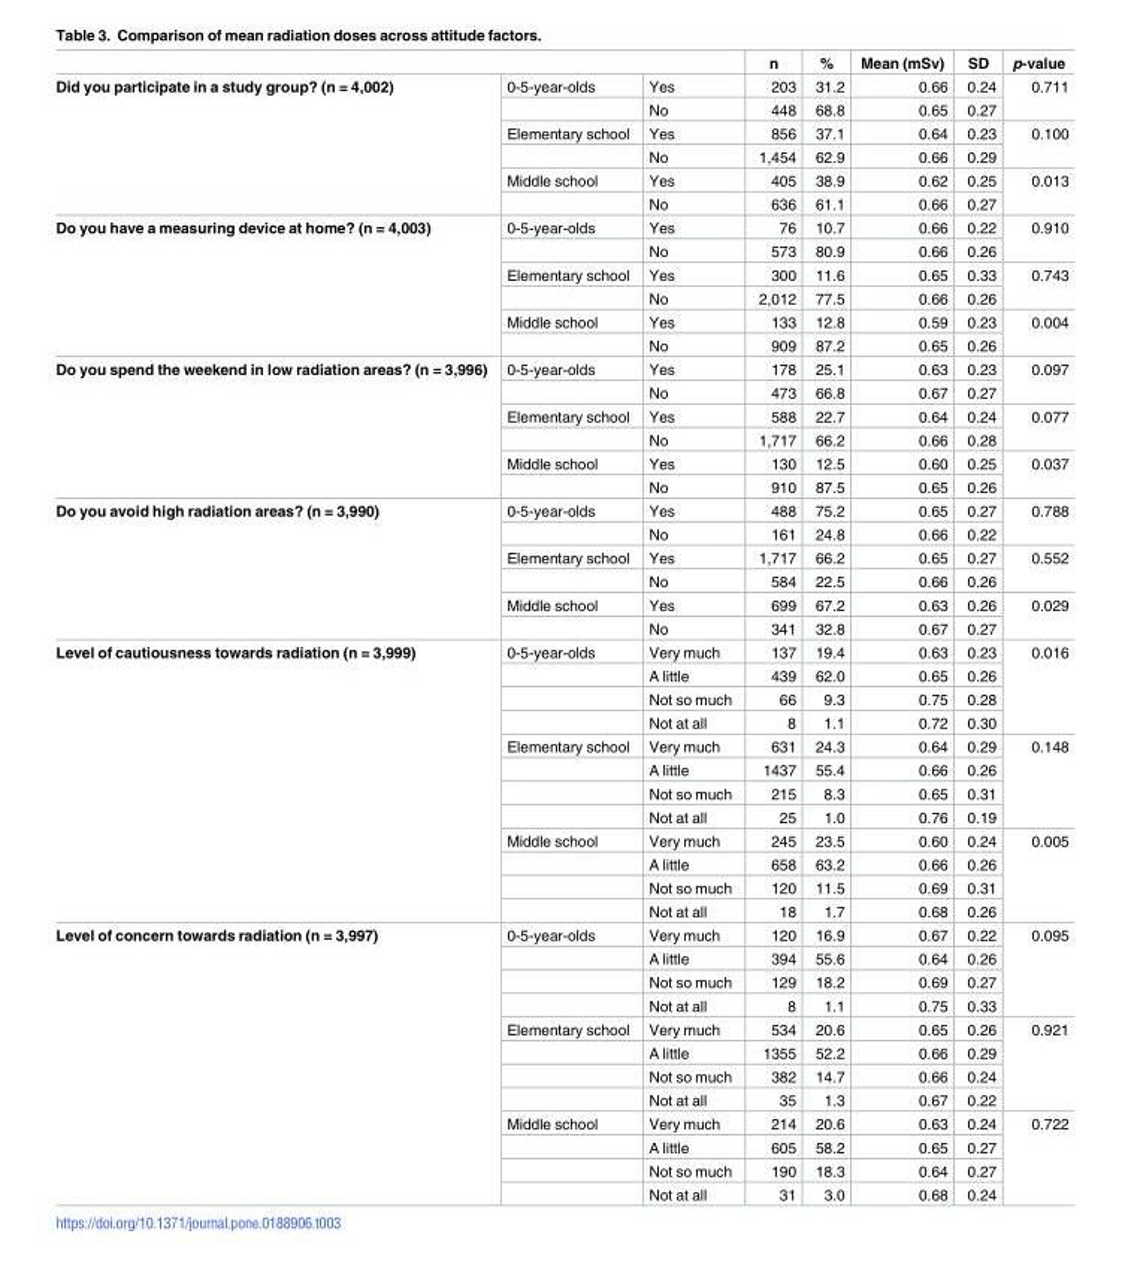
<table><thead><tr><td></td><td></td><td></td><td>n</td><td>%</td><td>Mean (mSv)</td><td>SD</td><td>p-value</td></tr></thead><tbody><tr><td rowspan="6">Did you participate in a study group? (n = 4,002)</td><td>0-5-year-olds</td><td>Yes</td><td>203</td><td>31.2</td><td>0.66</td><td>0.24</td><td rowspan="2">0.711</td></tr><tr><td></td><td>No</td><td>448</td><td>68.8</td><td>0.65</td><td>0.27</td></tr><tr><td>Elementary school</td><td>Yes</td><td>856</td><td>37.1</td><td>0.64</td><td>0.23</td><td rowspan="2">0.100</td></tr><tr><td></td><td>No</td><td>1,454</td><td>62.9</td><td>0.66</td><td>0.29</td></tr><tr><td>Middle school</td><td>Yes</td><td>405</td><td>38.9</td><td>0.62</td><td>0.25</td><td rowspan="2">0.013</td></tr><tr><td></td><td>No</td><td>636</td><td>61.1</td><td>0.66</td><td>0.27</td></tr><tr><td rowspan="6">Do you have a measuring device at home? (n = 4,003)</td><td>0-5-year-olds</td><td>Yes</td><td>76</td><td>10.7</td><td>0.66</td><td>0.22</td><td rowspan="2">0.910</td></tr><tr><td></td><td>No</td><td>573</td><td>80.9</td><td>0.66</td><td>0.26</td></tr><tr><td>Elementary school</td><td>Yes</td><td>300</td><td>11.6</td><td>0.65</td><td>0.33</td><td rowspan="2">0.743</td></tr><tr><td></td><td>No</td><td>2,012</td><td>77.5</td><td>0.66</td><td>0.26</td></tr><tr><td>Middle school</td><td>Yes</td><td>133</td><td>12.8</td><td>0.59</td><td>0.23</td><td rowspan="2">0.004</td></tr><tr><td></td><td>No</td><td>909</td><td>87.2</td><td>0.65</td><td>0.26</td></tr><tr><td rowspan="6">Do you spend the weekend in low radiation areas? (n = 3,996)</td><td>0-5-year-olds</td><td>Yes</td><td>178</td><td>25.1</td><td>0.63</td><td>0.23</td><td rowspan="2">0.097</td></tr><tr><td></td><td>No</td><td>473</td><td>66.8</td><td>0.67</td><td>0.27</td></tr><tr><td>Elementary school</td><td>Yes</td><td>588</td><td>22.7</td><td>0.64</td><td>0.24</td><td rowspan="2">0.077</td></tr><tr><td></td><td>No</td><td>1,717</td><td>66.2</td><td>0.66</td><td>0.28</td></tr><tr><td>Middle school</td><td>Yes</td><td>130</td><td>12.5</td><td>0.60</td><td>0.25</td><td rowspan="2">0.037</td></tr><tr><td></td><td>No</td><td>910</td><td>87.5</td><td>0.65</td><td>0.26</td></tr><tr><td rowspan="6">Do you avoid high radiation areas? (n = 3,990)</td><td>0-5-year-olds</td><td>Yes</td><td>488</td><td>75.2</td><td>0.65</td><td>0.27</td><td rowspan="2">0.788</td></tr><tr><td></td><td>No</td><td>161</td><td>24.8</td><td>0.66</td><td>0.22</td></tr><tr><td>Elementary school</td><td>Yes</td><td>1,717</td><td>66.2</td><td>0.65</td><td>0.27</td><td rowspan="2">0.552</td></tr><tr><td></td><td>No</td><td>584</td><td>22.5</td><td>0.66</td><td>0.26</td></tr><tr><td>Middle school</td><td>Yes</td><td>699</td><td>67.2</td><td>0.63</td><td>0.26</td><td rowspan="2">0.029</td></tr><tr><td></td><td>No</td><td>341</td><td>32.8</td><td>0.67</td><td>0.27</td></tr><tr><td rowspan="12">Level of cautiousness towards radiation (n = 3,999)</td><td>0-5-year-olds</td><td>Very much</td><td>137</td><td>19.4</td><td>0.63</td><td>0.23</td><td rowspan="4">0.016</td></tr><tr><td></td><td>A little</td><td>439</td><td>62.0</td><td>0.65</td><td>0.26</td></tr><tr><td></td><td>Not so much</td><td>66</td><td>9.3</td><td>0.75</td><td>0.28</td></tr><tr><td></td><td>Not at all</td><td>8</td><td>1.1</td><td>0.72</td><td>0.30</td></tr><tr><td>Elementary school</td><td>Very much</td><td>631</td><td>24.3</td><td>0.64</td><td>0.29</td><td rowspan="4">0.148</td></tr><tr><td></td><td>A little</td><td>1437</td><td>55.4</td><td>0.66</td><td>0.26</td></tr><tr><td></td><td>Not so much</td><td>215</td><td>8.3</td><td>0.65</td><td>0.31</td></tr><tr><td></td><td>Not at all</td><td>25</td><td>1.0</td><td>0.76</td><td>0.19</td></tr><tr><td>Middle school</td><td>Very much</td><td>245</td><td>23.5</td><td>0.60</td><td>0.24</td><td rowspan="4">0.005</td></tr><tr><td></td><td>A little</td><td>658</td><td>63.2</td><td>0.66</td><td>0.26</td></tr><tr><td></td><td>Not so much</td><td>120</td><td>11.5</td><td>0.69</td><td>0.31</td></tr><tr><td></td><td>Not at all</td><td>18</td><td>1.7</td><td>0.68</td><td>0.26</td></tr><tr><td rowspan="12">Level of concern towards radiation (n = 3,997)</td><td>0-5-year-olds</td><td>Very much</td><td>120</td><td>16.9</td><td>0.67</td><td>0.22</td><td rowspan="4">0.095</td></tr><tr><td></td><td>A little</td><td>394</td><td>55.6</td><td>0.64</td><td>0.26</td></tr><tr><td></td><td>Not so much</td><td>129</td><td>18.2</td><td>0.69</td><td>0.27</td></tr><tr><td></td><td>Not at all</td><td>8</td><td>1.1</td><td>0.75</td><td>0.33</td></tr><tr><td>Elementary school</td><td>Very much</td><td>534</td><td>20.6</td><td>0.65</td><td>0.26</td><td rowspan="4">0.921</td></tr><tr><td></td><td>A little</td><td>1355</td><td>52.2</td><td>0.66</td><td>0.29</td></tr><tr><td></td><td>Not so much</td><td>382</td><td>14.7</td><td>0.66</td><td>0.24</td></tr><tr><td></td><td>Not at all</td><td>35</td><td>1.3</td><td>0.67</td><td>0.22</td></tr><tr><td>Middle school</td><td>Very much</td><td>214</td><td>20.6</td><td>0.63</td><td>0.24</td><td rowspan="4">0.722</td></tr><tr><td></td><td>A little</td><td>605</td><td>58.2</td><td>0.65</td><td>0.27</td></tr><tr><td></td><td>Not so much</td><td>190</td><td>18.3</td><td>0.64</td><td>0.27</td></tr><tr><td></td><td>Not at all</td><td>31</td><td>3.0</td><td>0.68</td><td>0.24</td></tr></tbody></table>